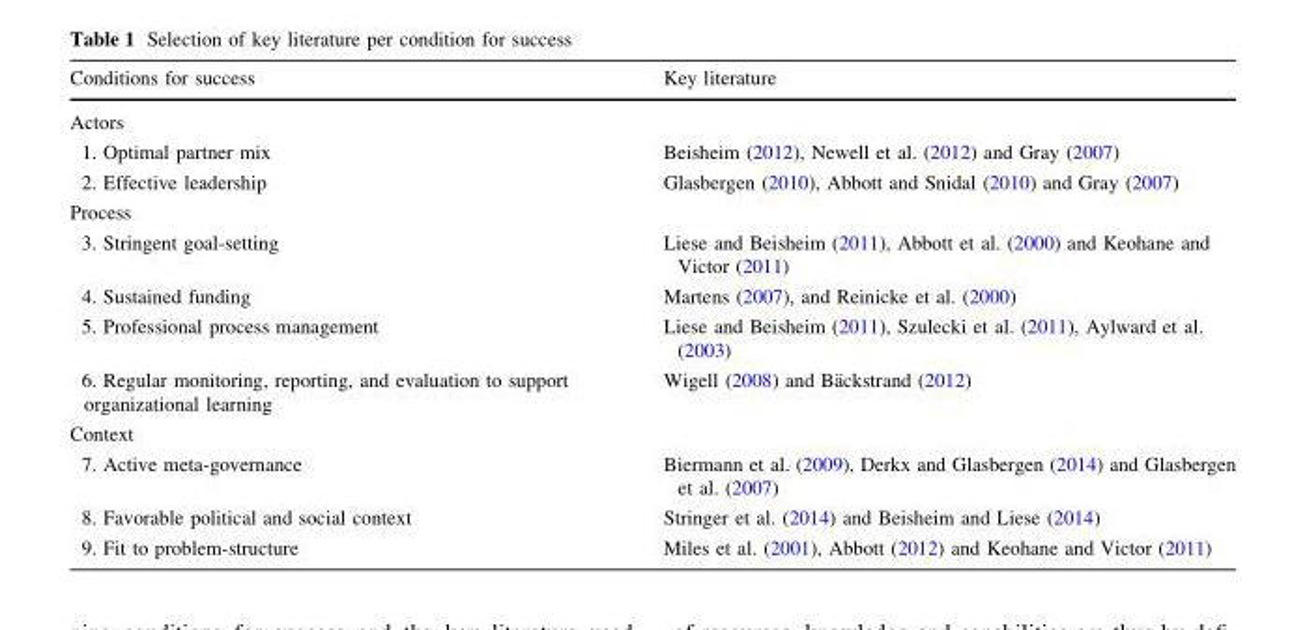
<table><thead><tr><td>Conditions for success</td><td>Key literature</td></tr></thead><tbody><tr><td colspan="2">Actors</td></tr><tr><td>1. Optimal partner mix</td><td>Beisheim (2012), Newell et al. (2012) and Gray (2007)</td></tr><tr><td>2. Effective leadership</td><td>Glasbergen (2010), Abbott and Snidal (2010) and Gray (2007)</td></tr><tr><td colspan="2">Process</td></tr><tr><td>3. Stringent goal-setting</td><td>Liese and Beisheim (2011), Abbott et al. (2000) and Keohane and Victor (2011)</td></tr><tr><td>4. Sustained funding</td><td>Martens (2007), and Reinicke et al. (2000)</td></tr><tr><td>5. Professional process management</td><td>Liese and Beisheim (2011), Szulecki et al. (2011), Aylward et al. (2003)</td></tr><tr><td>6. Regular monitoring, reporting, and evaluation to support organizational learning</td><td>Wigell (2008) and Ba¨ckstrand (2012)</td></tr><tr><td colspan="2">Context</td></tr><tr><td>7. Active meta-governance</td><td>Biermann et al. (2009), Derkx and Glasbergen (2014) and Glasbergen et al. (2007)</td></tr><tr><td>8. Favorable political and social context</td><td>Stringer et al. (2014) and Beisheim and Liese (2014)</td></tr><tr><td>9. Fit to problem-structure</td><td>Miles et al. (2001), Abbott (2012) and Keohane and Victor (2011)</td></tr></tbody></table>